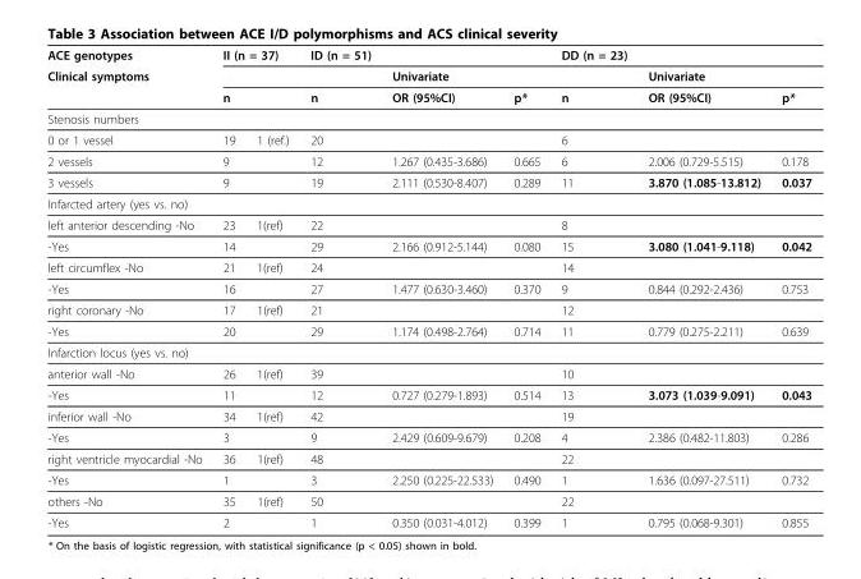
<table><thead><tr><td rowspan="3">ACE genotypes Clinical symptoms</td><td colspan="2">II (n = 37)</td><td rowspan="3">ID (n = 51) n</td><td rowspan="3">Univariate OR (95%CI)</td><td rowspan="3">p*</td><td rowspan="3">DD (n = 23) n</td><td rowspan="3">Univariate OR (95%CI)</td><td rowspan="3">p*</td></tr><tr><td rowspan="2">n</td><td rowspan="2"></td></tr><tr></tr></thead><tbody><tr><td colspan="9">Stenosis numbers</td></tr><tr><td>0 or 1 vessel</td><td>19</td><td>1 (ref.)</td><td>20</td><td></td><td></td><td>6</td><td></td><td></td></tr><tr><td>2 vessels</td><td>9</td><td></td><td>12</td><td>1.267 (0.435-3.686)</td><td>0.665</td><td>6</td><td>2.006 (0.729-5.515)</td><td>0.178</td></tr><tr><td>3 vessels</td><td>9</td><td></td><td>19</td><td>2.111 (0.530-8.407)</td><td>0.289</td><td>11</td><td>3.870 (1.085-13.812)</td><td>0.037</td></tr><tr><td colspan="9">Infarcted artery (yes vs. no)</td></tr><tr><td>left anterior descending -No</td><td>23</td><td>1(ref)</td><td>22</td><td></td><td></td><td>8</td><td></td><td></td></tr><tr><td>-Yes</td><td>14</td><td></td><td>29</td><td>2.166 (0.912-5.144)</td><td>0.080</td><td>15</td><td>3.080 (1.041-9.118)</td><td>0.042</td></tr><tr><td>left circumflex -No</td><td>21</td><td>1(ref)</td><td>24</td><td></td><td></td><td>14</td><td></td><td></td></tr><tr><td>-Yes</td><td>16</td><td></td><td>27</td><td>1.477 (0.630-3.460)</td><td>0.370</td><td>9</td><td>0.844 (0.292-2.436)</td><td>0.753</td></tr><tr><td>right coronary -No</td><td>17</td><td>1(ref)</td><td>21</td><td></td><td></td><td>12</td><td></td><td></td></tr><tr><td>-Yes</td><td>20</td><td></td><td>29</td><td>1.174 (0.498-2.764)</td><td>0.714</td><td>11</td><td>0.779 (0.275-2.211)</td><td>0.639</td></tr><tr><td colspan="9">Infarction locus (yes vs. no)</td></tr><tr><td>anterior wall -No</td><td>26</td><td>1(ref)</td><td>39</td><td></td><td></td><td>10</td><td></td><td></td></tr><tr><td>-Yes</td><td>11</td><td></td><td>12</td><td>0.727 (0.279-1.893)</td><td>0.514</td><td>13</td><td>3.073 (1.039-9.091)</td><td>0.043</td></tr><tr><td>inferior wall -No</td><td>34</td><td>1(ref)</td><td>42</td><td></td><td></td><td>19</td><td></td><td></td></tr><tr><td>-Yes</td><td>3</td><td></td><td>9</td><td>2.429 (0.609-9.679)</td><td>0.208</td><td>4</td><td>2.386 (0.482-11.803)</td><td>0.286</td></tr><tr><td>right ventricle myocardial -No</td><td>36</td><td>1(ref)</td><td>48</td><td></td><td></td><td>22</td><td></td><td></td></tr><tr><td>-Yes</td><td>1</td><td></td><td>3</td><td>2.250 (0.225-22.533)</td><td>0.490</td><td>1</td><td>1.636 (0.097-27.511)</td><td>0.732</td></tr><tr><td>others -No</td><td>35</td><td>1(ref)</td><td>50</td><td></td><td></td><td>22</td><td></td><td></td></tr><tr><td>-Yes</td><td>2</td><td></td><td>1</td><td>0.350 (0.031-4.012)</td><td>0.399</td><td>1</td><td>0.795 (0.068-9.301)</td><td>0.855</td></tr></tbody></table>